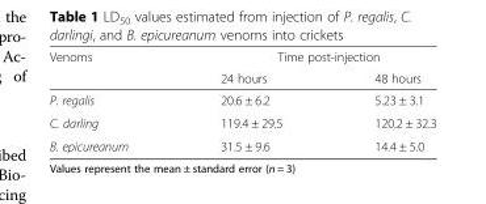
<table><thead><tr><td rowspan="2">Venoms</td><td colspan="2">Time post-injection</td></tr><tr><td>24 hours</td><td>48 hours</td></tr></thead><tbody><tr><td>P. regalis</td><td>20.6 ± 6.2</td><td>5.23 ± 3.1</td></tr><tr><td>C. darling</td><td>119.4 ± 29.5</td><td>120.2 ± 32.3</td></tr><tr><td>B. epicureanum</td><td>31.5 ± 9.6</td><td>14.4 ± 5.0</td></tr></tbody></table>